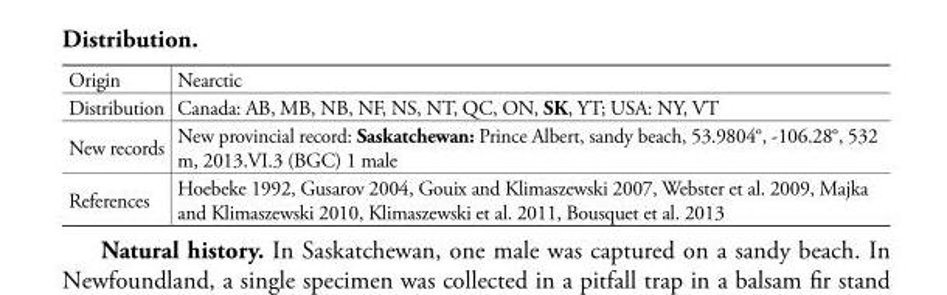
<table><tbody><tr><td>Origin</td><td>Nearctic</td></tr><tr><td>Distribution</td><td>Canada: AB, MB, NB, NF, NS, NT, QC, ON, SK, YT; USA: NY, VT</td></tr><tr><td>New records</td><td>New provincial record: Saskatchewan: Prince Albert, sandy beach, 53.9804°, -106.28°, 532 m, 2013.VI.3 (BGC) 1 male</td></tr><tr><td>References</td><td>Hoebeke 1992, Gusarov 2004, Gouix and Klimaszewski 2007, Webster et al. 2009, Majka and Klimaszewski 2010, Klimaszewski et al. 2011, Bousquet et al. 2013</td></tr></tbody></table>